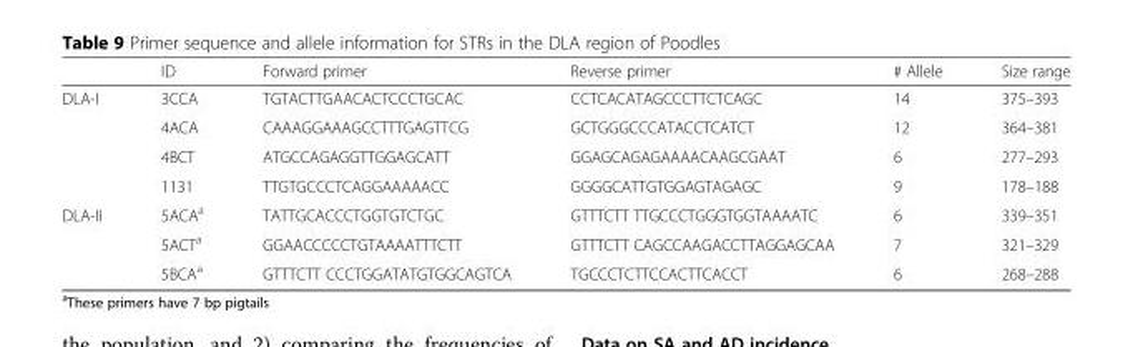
<table><thead><tr><td></td><td>ID</td><td>Forward primer</td><td>Reverse primer</td><td># Allele</td><td>Size range</td></tr></thead><tbody><tr><td rowspan="4">DLA-I</td><td>3CCA</td><td>TGTACTTGAACACTCCCTGCAC</td><td>CCTCACATAGCCCTTCTCAGC</td><td>14</td><td>375–393</td></tr><tr><td>4ACA</td><td>CAAAGGAAAGCCTTTGAGTTCG</td><td>GCTGGGCCCATACCTCATCT</td><td>12</td><td>364–381</td></tr><tr><td>4BCT</td><td>ATGCCAGAGGTTGGAGCATT</td><td>GGAGCAGAGAAAACAAGCGAAT</td><td>6</td><td>277–293</td></tr><tr><td>1131</td><td>TTGTGCCCTCAGGAAAAACC</td><td>GGGGCATTGTGGAGTAGAGC</td><td>9</td><td>178–188</td></tr><tr><td rowspan="3">DLA-II</td><td>5ACA<sup>a</sup></td><td>TATTGCACCCTGGTGTCTGC</td><td>GTTTCTT TTGCCCTGGGTGGTAAAATC</td><td>6</td><td>339–351</td></tr><tr><td>5ACT<sup>a</sup></td><td>GGAACCCCCTGTAAAATTTCTT</td><td>GTTTCTT CAGCCAAGACCTTAGGAGCAA</td><td>7</td><td>321–329</td></tr><tr><td>5BCA<sup>a</sup></td><td>GTTTCTT CCCTGGATATGTGGCAGTCA</td><td>TGCCCTCTTCCACTTCACCT</td><td>6</td><td>268–288</td></tr></tbody></table>